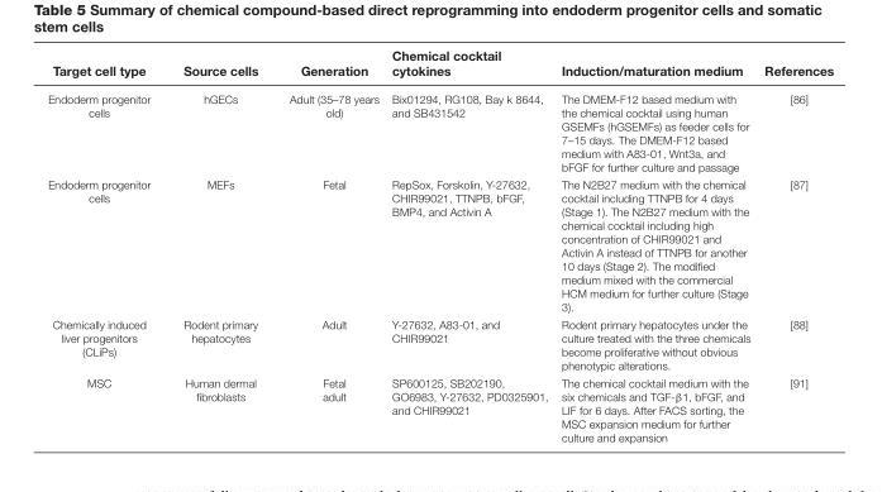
<table><thead><tr><td>Target cell type</td><td>Source cells</td><td>Generation</td><td>Chemical cocktail cytokines</td><td>Induction/maturation medium</td><td>References</td></tr></thead><tbody><tr><td>Endoderm progenitor cells</td><td>hGECs</td><td>Adult (35–78 years old)</td><td>Bix01294, RG108, Bay k 8644, and SB431542</td><td>The DMEM-F12 based medium with the chemical cocktail using human GSEMFs (hGSEMFs) as feeder cells for 7–15 days. The DMEM-F12 based medium with A83-01, Wnt3a, and bFGF for further culture and passage</td><td>[86]</td></tr><tr><td>Endoderm progenitor cells</td><td>MEFs</td><td>Fetal</td><td>RepSox, Forskolin, Y-27632, CHIR99021, TTNPB, bFGF, BMP4, and Activin A</td><td>The N2B27 medium with the chemical cocktail including TTNPB for 4 days (Stage 1). The N2B27 medium with the chemical cocktail including high concentration of CHIR99021 and Activin A instead of TTNPB for another 10 days (Stage 2). The modified medium mixed with the commercial HCM medium for further culture (Stage 3).</td><td>[87]</td></tr><tr><td>Chemically induced liver progenitors (CLiPs)</td><td>Rodent primary hepatocytes</td><td>Adult</td><td>Y-27632, A83-01, and CHIR99021</td><td>Rodent primary hepatocytes under the culture treated with the three chemicals become proliferative without obvious phenotypic alterations.</td><td>[88]</td></tr><tr><td>MSC</td><td>Human dermal fibroblasts</td><td>Fetal adult</td><td>SP600125, SB202190, GO6983, Y-27632, PD0325901, and CHIR99021</td><td>The chemical cocktail medium with the six chemicals and TGF-β1, bFGF, and LIF for 6 days. After FACS sorting, the MSC expansion medium for further culture and expansion</td><td>[91]</td></tr></tbody></table>